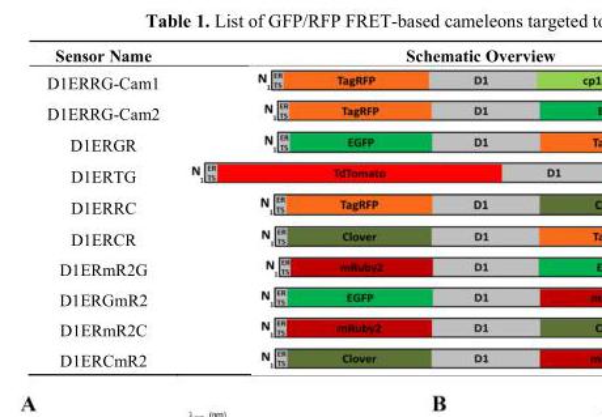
<table><thead><tr><td>Sensor Name</td><td>Schematic Overview</td></tr></thead><tbody><tr><td colspan="2">D1ERRG-Cam1</td></tr><tr><td colspan="2">D1ERRG-Cam2</td></tr><tr><td colspan="2">D1ERGR</td></tr><tr><td colspan="2">D1ERTG</td></tr><tr><td colspan="2">D1ERRC</td></tr><tr><td colspan="2">D1ERCR</td></tr><tr><td colspan="2">D1ERmR2G</td></tr><tr><td colspan="2">D1ERGmR2</td></tr><tr><td colspan="2">D1ERmR2C</td></tr><tr><td>D1ERCmR2</td><td></td></tr></tbody></table>